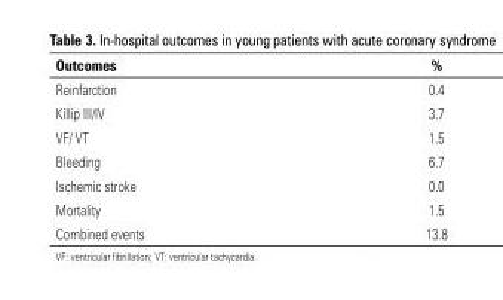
<table><thead><tr><td>outcomes</td><td>%</td></tr></thead><tbody><tr><td>Reinfarction</td><td>0.4</td></tr><tr><td>Killip III/IV</td><td>3.7</td></tr><tr><td>VF/ VT</td><td>1.5</td></tr><tr><td>Bleeding</td><td>6.7</td></tr><tr><td>Ischemic stroke</td><td>0.0</td></tr><tr><td>Mortality</td><td>1.5</td></tr><tr><td>Combined events</td><td>13.8</td></tr></tbody></table>